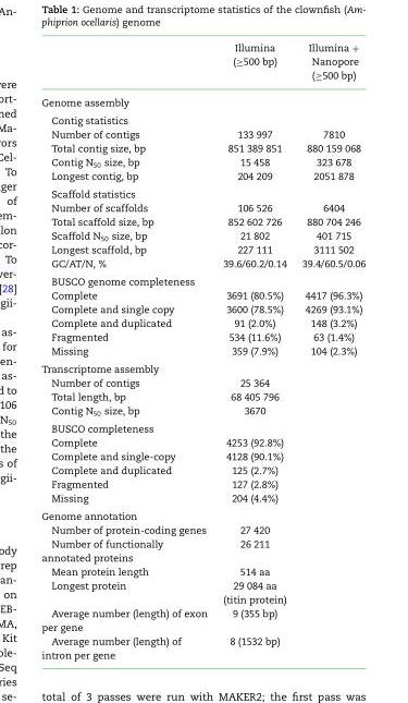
<table><thead><tr><td></td><td>Illumina (≥500 bp)</td><td>Illumina + Nanopore (≥500 bp)</td></tr></thead><tbody><tr><td colspan="3">Genome assembly</td></tr><tr><td colspan="3">Contig statistics</td></tr><tr><td>Number of contigs</td><td>133 997</td><td>7810</td></tr><tr><td>Total contig size, bp</td><td>851 389 851</td><td>880 159 068</td></tr><tr><td>Contig N<sub>50</sub> size, bp</td><td>15 458</td><td>323 678</td></tr><tr><td>Longest contig, bp</td><td>204 209</td><td>2051 878</td></tr><tr><td colspan="3">Scaffold statistics</td></tr><tr><td>Number of scaffolds</td><td>106 526</td><td>6404</td></tr><tr><td>Total scaffold size, bp</td><td>852 602 726</td><td>880 704 246</td></tr><tr><td>Scaffold N<sub>50</sub> size, bp</td><td>21 802</td><td>401 715</td></tr><tr><td>Longest scaffold, bp</td><td>227 111</td><td>3111 502</td></tr><tr><td>GC/AT/N, %</td><td>39.6/60.2/0.14</td><td>39.4/60.5/0.06</td></tr><tr><td colspan="3">BUSCO genome completeness</td></tr><tr><td>Complete</td><td>3691 (80.5%)</td><td>4417 (96.3%)</td></tr><tr><td>Complete and single copy</td><td>3600 (78.5%)</td><td>4269 (93.1%)</td></tr><tr><td>Complete and duplicated</td><td>91 (2.0%)</td><td>148 (3.2%)</td></tr><tr><td>Fragmented</td><td>534 (11.6%)</td><td>63 (1.4%)</td></tr><tr><td>Missing</td><td>359 (7.9%)</td><td>104 (2.3%)</td></tr><tr><td colspan="3">Transcriptome assembly</td></tr><tr><td>Number of contigs</td><td>25 364</td><td></td></tr><tr><td>Total length, bp</td><td>68 405 796</td><td></td></tr><tr><td>Contig N<sub>50</sub> size, bp</td><td>3670</td><td></td></tr><tr><td colspan="3">BUSCO completeness</td></tr><tr><td>Complete</td><td>4253 (92.8%)</td><td></td></tr><tr><td>Complete and single-copy</td><td>4128 (90.1%)</td><td></td></tr><tr><td>Complete and duplicated</td><td>125 (2.7%)</td><td></td></tr><tr><td>Fragmented</td><td>127 (2.8%)</td><td></td></tr><tr><td>Missing</td><td>204 (4.4%)</td><td></td></tr><tr><td colspan="3">Genome annotation</td></tr><tr><td>Number of protein-coding genes</td><td>27 420</td><td></td></tr><tr><td>Number of functionally annotated proteins</td><td>26 211</td><td></td></tr><tr><td>Mean protein length</td><td>514 aa</td><td></td></tr><tr><td>Longest protein</td><td>29 084 aa (titin protein)</td><td></td></tr><tr><td>Average number (length) of exon per gene</td><td>9 (355 bp)</td><td></td></tr><tr><td>Average number (length) of intron per gene</td><td>8 (1532 bp)</td><td></td></tr></tbody></table>